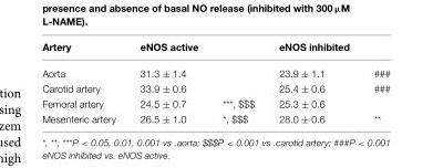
<table><thead><tr><td>Artery</td><td>eNOS active</td><td></td><td>eNOS inhibited</td><td></td></tr></thead><tbody><tr><td>Aorta</td><td>31.3 ± 1.4</td><td></td><td>23.9 ± 1.1</td><td>###</td></tr><tr><td>Carotid artery</td><td>33.9 ± 0.6</td><td></td><td>25.4 ± 0.6</td><td>###</td></tr><tr><td>Femoral artery</td><td>24.5 ± 0.7</td><td>***, $$$</td><td>25.3 ± 0.6</td><td></td></tr><tr><td>Mesenteric artery</td><td>26.5 ± 1.0</td><td>*, $$$</td><td>28.0 ± 0.6</td><td>**</td></tr></tbody></table>